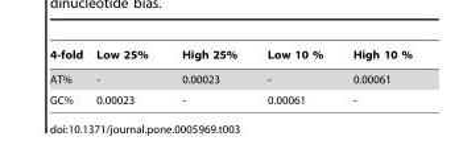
<table><thead><tr><td>4-fold</td><td>Low 25%</td><td>High 25%</td><td>Low 10 %</td><td>High 10 %</td></tr></thead><tbody><tr><td>AT%</td><td>-</td><td>0.00023</td><td>-</td><td>0.00061</td></tr><tr><td>GC%</td><td>0.00023</td><td>-</td><td>0.00061</td><td>-</td></tr></tbody></table>